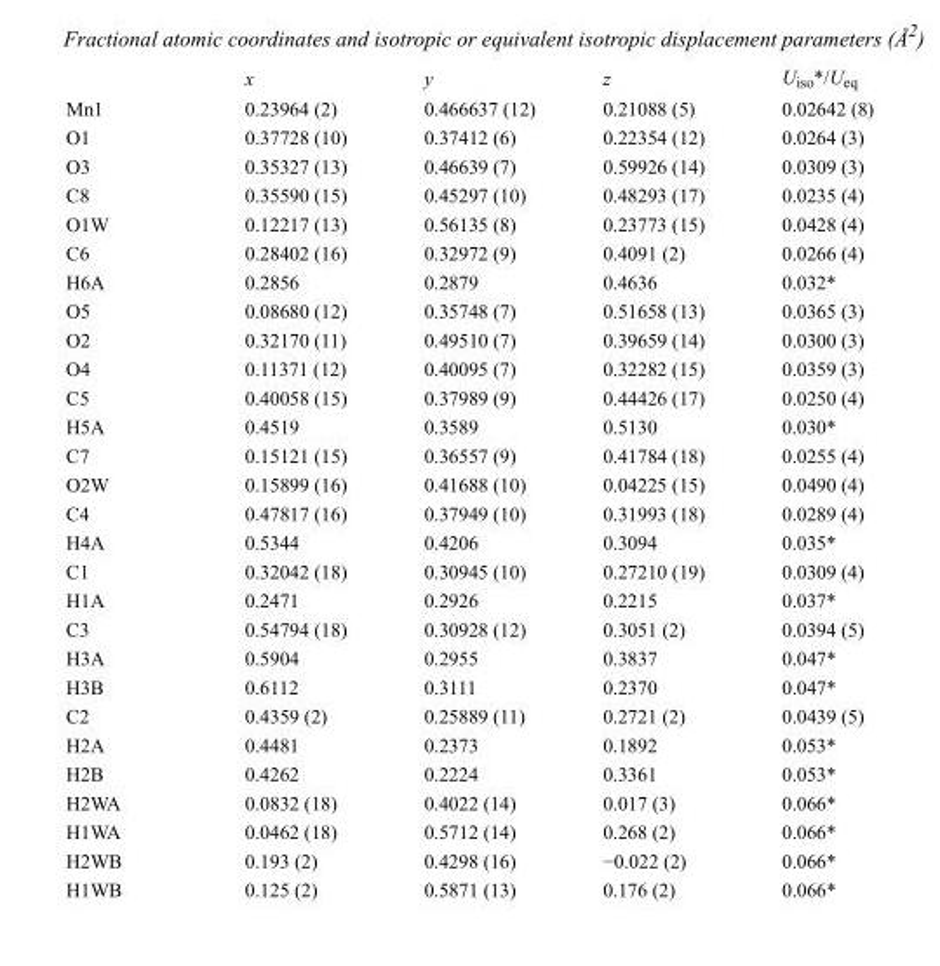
<table><thead><tr><td></td><td>x</td><td>y</td><td>z</td><td>U<sub>iso</sub>*/U<sub>eq</sub></td></tr></thead><tbody><tr><td>Mn1</td><td>0.23964 (2)</td><td>0.466637 (12)</td><td>0.21088 (5)</td><td>0.02642 (8)</td></tr><tr><td>O1</td><td>0.37728 (10)</td><td>0.37412 (6)</td><td>0.22354 (12)</td><td>0.0264 (3)</td></tr><tr><td>O3</td><td>0.35327 (13)</td><td>0.46639 (7)</td><td>0.59926 (14)</td><td>0.0309 (3)</td></tr><tr><td>C8</td><td>0.35590 (15)</td><td>0.45297 (10)</td><td>0.48293 (17)</td><td>0.0235 (4)</td></tr><tr><td>O1W</td><td>0.12217 (13)</td><td>0.56135 (8)</td><td>0.23773 (15)</td><td>0.0428 (4)</td></tr><tr><td>C6</td><td>0.28402 (16)</td><td>0.32972 (9)</td><td>0.4091 (2)</td><td>0.0266 (4)</td></tr><tr><td>H6A</td><td>0.2856</td><td>0.2879</td><td>0.4636</td><td>0.032*</td></tr><tr><td>O5</td><td>0.08680 (12)</td><td>0.35748 (7)</td><td>0.51658 (13)</td><td>0.0365 (3)</td></tr><tr><td>O2</td><td>0.32170 (11)</td><td>0.49510 (7)</td><td>0.39659 (14)</td><td>0.0300 (3)</td></tr><tr><td>O4</td><td>0.11371 (12)</td><td>0.40095 (7)</td><td>0.32282 (15)</td><td>0.0359 (3)</td></tr><tr><td>C5</td><td>0.40058 (15)</td><td>0.37989 (9)</td><td>0.44426 (17)</td><td>0.0250 (4)</td></tr><tr><td>H5A</td><td>0.4519</td><td>0.3589</td><td>0.5130</td><td>0.030*</td></tr><tr><td>C7</td><td>0.15121 (15)</td><td>0.36557 (9)</td><td>0.41784 (18)</td><td>0.0255 (4)</td></tr><tr><td>O2W</td><td>0.15899 (16)</td><td>0.41688 (10)</td><td>0.04225 (15)</td><td>0.0490 (4)</td></tr><tr><td>C4</td><td>0.47817 (16)</td><td>0.37949 (10)</td><td>0.31993 (18)</td><td>0.0289 (4)</td></tr><tr><td>H4A</td><td>0.5344</td><td>0.4206</td><td>0.3094</td><td>0.035*</td></tr><tr><td>C1</td><td>0.32042 (18)</td><td>0.30945 (10)</td><td>0.27210 (19)</td><td>0.0309 (4)</td></tr><tr><td>H1A</td><td>0.2471</td><td>0.2926</td><td>0.2215</td><td>0.037*</td></tr><tr><td>C3</td><td>0.54794 (18)</td><td>0.30928 (12)</td><td>0.3051 (2)</td><td>0.0394 (5)</td></tr><tr><td>H3A</td><td>0.5904</td><td>0.2955</td><td>0.3837</td><td>0.047*</td></tr><tr><td>H3B</td><td>0.6112</td><td>0.3111</td><td>0.2370</td><td>0.047*</td></tr><tr><td>C2</td><td>0.4359 (2)</td><td>0.25889 (11)</td><td>0.2721 (2)</td><td>0.0439 (5)</td></tr><tr><td>H2A</td><td>0.4481</td><td>0.2373</td><td>0.1892</td><td>0.053*</td></tr><tr><td>H2B</td><td>0.4262</td><td>0.2224</td><td>0.3361</td><td>0.053*</td></tr><tr><td>H2WA</td><td>0.0832 (18)</td><td>0.4022 (14)</td><td>0.017 (3)</td><td>0.066*</td></tr><tr><td>H1WA</td><td>0.0462 (18)</td><td>0.5712 (14)</td><td>0.268 (2)</td><td>0.066*</td></tr><tr><td>H2WB</td><td>0.193 (2)</td><td>0.4298 (16)</td><td>−0.022 (2)</td><td>0.066*</td></tr><tr><td>H1WB</td><td>0.125 (2)</td><td>0.5871 (13)</td><td>0.176 (2)</td><td>0.066*</td></tr></tbody></table>